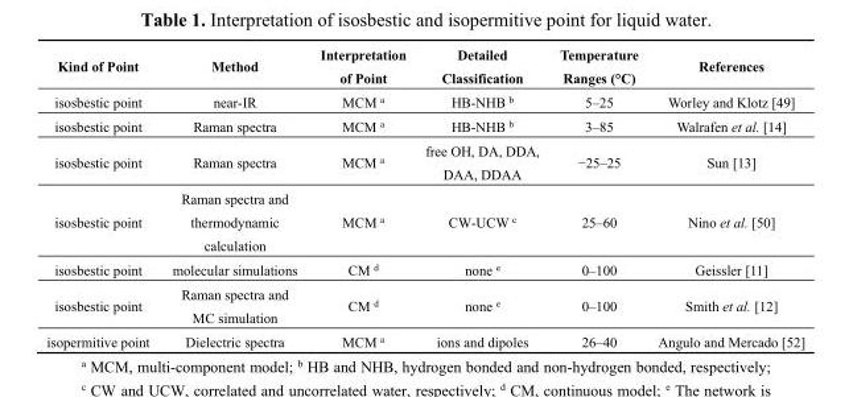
<table><thead><tr><td>Kind of Point</td><td>Method</td><td>Interpretation of Point</td><td>Detailed Classification</td><td>Temperature Ranges (°C)</td><td>References</td></tr></thead><tbody><tr><td>isosbestic point</td><td>near-IR</td><td>MCM <sup>a</sup></td><td>HB-NHB <sup>b</sup></td><td>5–25</td><td>Worley and Klotz [49]</td></tr><tr><td>isosbestic point</td><td>Raman spectra</td><td>MCM <sup>a</sup></td><td>HB-NHB <sup>b</sup></td><td>3–85</td><td>Walrafen et al. [14]</td></tr><tr><td>isosbestic point</td><td>Raman spectra</td><td>MCM <sup>a</sup></td><td>free OH, DA, DDA, DAA, DDAA</td><td>−25–25</td><td>Sun [13]</td></tr><tr><td>isosbestic point</td><td>Raman spectra and thermodynamic calculation</td><td>MCM <sup>a</sup></td><td>CW-UCW <sup>c</sup></td><td>25–60</td><td>Nino et al. [50]</td></tr><tr><td>isosbestic point</td><td>molecular simulations</td><td>CM <sup>d</sup></td><td>none <sup>e</sup></td><td>0–100</td><td>Geissler [11]</td></tr><tr><td>isosbestic point</td><td>Raman spectra and MC simulation</td><td>CM <sup>d</sup></td><td>none <sup>e</sup></td><td>0–100</td><td>Smith et al. [12]</td></tr><tr><td>isopermitive point</td><td>Dielectric spectra</td><td>MCM <sup>a</sup></td><td>ions and dipoles</td><td>26–40</td><td>Angulo and Mercado [52]</td></tr></tbody></table>